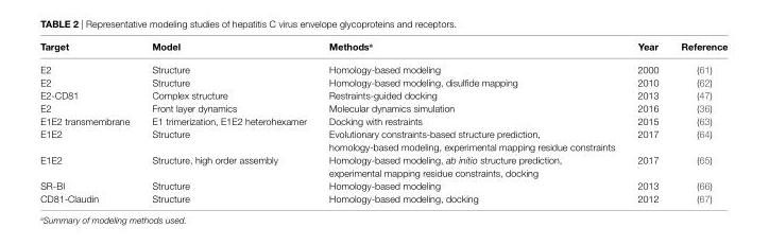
<table><thead><tr><td>Target</td><td>Model</td><td>Methods<sup>a</sup></td><td>Year</td><td>Reference</td></tr></thead><tbody><tr><td>E2</td><td>Structure</td><td>Homology-based modeling</td><td>2000</td><td>(61)</td></tr><tr><td>E2</td><td>Structure</td><td>Homology-based modeling, disulfide mapping</td><td>2010</td><td>(62)</td></tr><tr><td>E2-CD81</td><td>Complex structure</td><td>Restraints-guided docking</td><td>2013</td><td>(47)</td></tr><tr><td>E2</td><td>Front layer dynamics</td><td>Molecular dynamics simulation</td><td>2016</td><td>(36)</td></tr><tr><td>E1E2 transmembrane</td><td>E1 trimerization, E1E2 heterohexamer</td><td>Docking with restraints</td><td>2015</td><td>(63)</td></tr><tr><td>E1E2</td><td>Structure</td><td>Evolutionary constraints-based structure prediction, homology-based modeling, experimental mapping residue constraints</td><td>2017</td><td>(64)</td></tr><tr><td>E1E2</td><td>Structure, high order assembly</td><td>Homology-based modeling, ab initio structure prediction, experimental mapping residue constraints, docking</td><td>2017</td><td>(65)</td></tr><tr><td>SR-BI</td><td>Structure</td><td>Homology-based modeling</td><td>2013</td><td>(66)</td></tr><tr><td>CD81-Claudin</td><td>Structure</td><td>Homology-based modeling, docking</td><td>2012</td><td>(67)</td></tr></tbody></table>